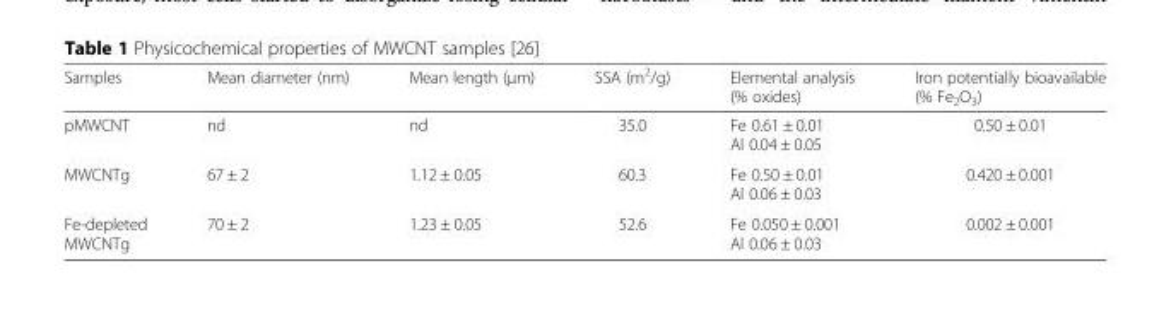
<table><thead><tr><td>Samples</td><td>Mean diameter (nm)</td><td>Mean length (μm)</td><td>SSA (m<sup>2</sup>/g)</td><td>Elemental analysis (% oxides)</td><td>Iron potentially bioavailable (% Fe<sub>2</sub>O<sub>3</sub>)</td></tr></thead><tbody><tr><td>pMWCNT</td><td>nd</td><td>nd</td><td>35.0</td><td>Fe 0.61 ± 0.01 Al 0.04 ± 0.05</td><td>0.50 ± 0.01</td></tr><tr><td>MWCNTg</td><td>67 ± 2</td><td>1.12 ± 0.05</td><td>60.3</td><td>Fe 0.50 ± 0.01 Al 0.06 ± 0.03</td><td>0.420 ± 0.001</td></tr><tr><td>Fe-depleted MWCNTg</td><td>70 ± 2</td><td>1.23 ± 0.05</td><td>52.6</td><td>Fe 0.050 ± 0.001 Al 0.06 ± 0.03</td><td>0.002 ± 0.001</td></tr></tbody></table>